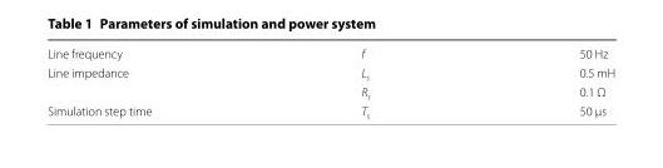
<table><tbody><tr><td>Line frequency</td><td>f</td><td>50 Hz</td></tr><tr><td rowspan="2">Line impedance</td><td>L<sub>s</sub></td><td>0.5 mH</td></tr><tr><td>R<sub>s</sub></td><td>0.1 Ω</td></tr><tr><td>Simulation step time</td><td>T<sub>s</sub></td><td>50 µs</td></tr></tbody></table>